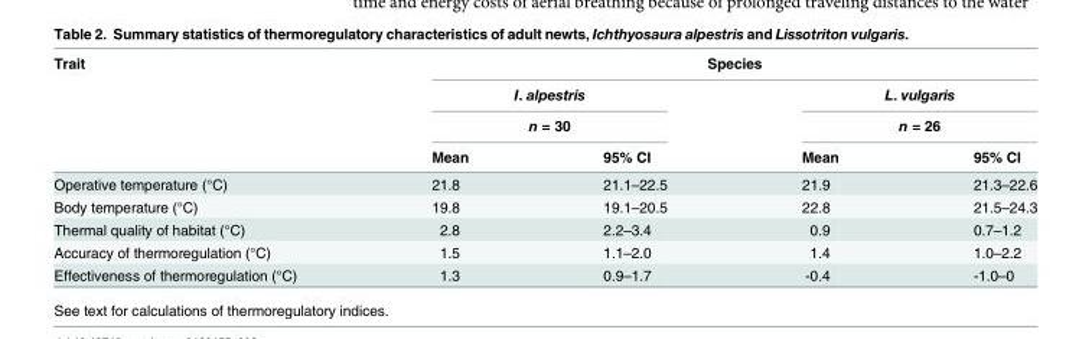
<table><thead><tr><td rowspan="4">Trait</td><td colspan="4">Species</td></tr><tr><td rowspan="2" colspan="2">I. alpestris n = 30</td><td rowspan="2" colspan="2">L. vulgaris n = 26</td></tr><tr></tr><tr><td>Mean</td><td>95% CI</td><td>Mean</td><td>95% CI</td></tr></thead><tbody><tr><td>Operative temperature (°C)</td><td>21.8</td><td>21.1–22.5</td><td>21.9</td><td>21.3–22.6</td></tr><tr><td>Body temperature (°C)</td><td>19.8</td><td>19.1–20.5</td><td>22.8</td><td>21.5–24.3</td></tr><tr><td>Thermal quality of habitat (°C)</td><td>2.8</td><td>2.2–3.4</td><td>0.9</td><td>0.7–1.2</td></tr><tr><td>Accuracy of thermoregulation (°C)</td><td>1.5</td><td>1.1–2.0</td><td>1.4</td><td>1.0–2.2</td></tr><tr><td>Effectiveness of thermoregulation (°C)</td><td>1.3</td><td>0.9–1.7</td><td>-0.4</td><td>-1.0–0</td></tr></tbody></table>